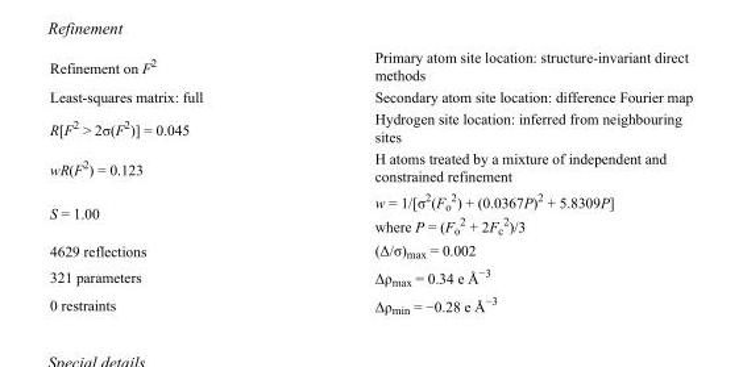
<table><tbody><tr><td>Refinement on F<sup>2</sup></td><td>Primary atom site location: structure-invariant direct methods</td></tr><tr><td>Least-squares matrix: full</td><td>Secondary atom site location: difference Fourier map</td></tr><tr><td>R[F<sup>2</sup> &gt; 2σ(F<sup>2</sup>)] = 0.045</td><td>Hydrogen site location: inferred from neighbouring sites</td></tr><tr><td>wR(F<sup>2</sup>) = 0.123</td><td>H atoms treated by a mixture of independent and constrained refinement</td></tr><tr><td>S = 1.00</td><td>w = 1/[σ<sup>2</sup>(F<sub>o</sub> <sup>2</sup>) + (0.0367P)<sup>2</sup> + 5.8309P] where P = (F<sub>o</sub> <sup>2</sup> + 2F<sub>c</sub> <sup>2</sup>)/3</td></tr><tr><td>4629 reflections</td><td>(Δ/σ)<sub>max</sub> = 0.002</td></tr><tr><td>321 parameters</td><td>Δρ<sub>max</sub> = 0.34 e Å<sup>−3</sup></td></tr><tr><td>0 restraints</td><td>Δρ<sub>min</sub> = −0.28 e Å<sup>−3</sup></td></tr></tbody></table>